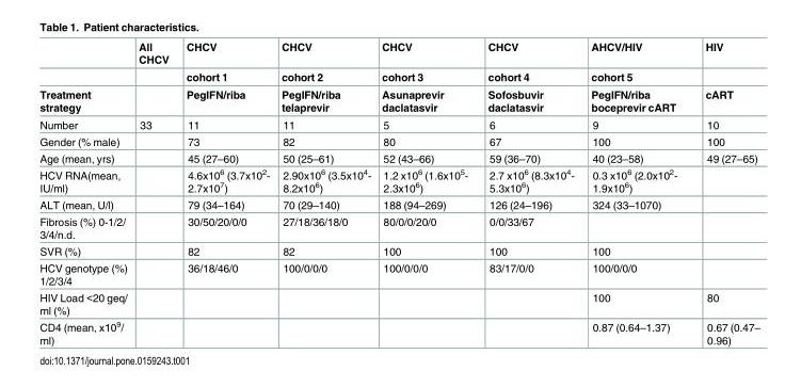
<table><thead><tr><td rowspan="3">Treatment strategy</td><td rowspan="3">All CHCV</td><td rowspan="3">CHCV cohort 1 PegIFN/riba</td><td rowspan="3">CHCV cohort 2 PegIFN/riba telaprevir</td><td rowspan="3">CHCV cohort 3 Asunaprevir daclatasvir</td><td rowspan="3">CHCV cohort 4 Sofosbuvir daclatasvir</td><td rowspan="3">AHCV/HIV cohort 5 PegIFN/riba boceprevir cART</td><td rowspan="3">HIV cART</td></tr><tr></tr><tr></tr></thead><tbody><tr><td>Number</td><td>33</td><td>11</td><td>11</td><td>5</td><td>6</td><td>9</td><td>10</td></tr><tr><td>Gender (% male)</td><td></td><td>73</td><td>82</td><td>80</td><td>67</td><td>100</td><td>100</td></tr><tr><td>Age (mean, yrs)</td><td></td><td>45 (27–60)</td><td>50 (25–61)</td><td>52 (43–66)</td><td>59 (36–70)</td><td>40 (23–58)</td><td>49 (27–65)</td></tr><tr><td>HCV RNA(mean, IU/ml)</td><td></td><td>4.6x10<sup>6</sup> (3.7x10<sup>2</sup>- 2.7x10<sup>7</sup>)</td><td>2.90x10<sup>6</sup> (3.5x10<sup>4</sup>- 8.2x10<sup>6</sup>)</td><td>1.2 x10<sup>6</sup> (1.6x10<sup>5</sup>- 2.3x10<sup>6</sup>)</td><td>2.7 x10<sup>6</sup> (8.3x10<sup>4</sup>- 5.3x10<sup>6</sup>)</td><td>0.3 x10<sup>6</sup> (2.0x10<sup>2</sup>- 1.9x10<sup>6</sup>)</td><td></td></tr><tr><td>ALT (mean, U/l)</td><td></td><td>79 (34–164)</td><td>70 (29–140)</td><td>188 (94–269)</td><td>126 (24–196)</td><td>324 (33–1070)</td><td></td></tr><tr><td>Fibrosis (%) 0-1/2/ 3/4/n.d.</td><td></td><td>30/50/20/0/0</td><td>27/18/36/18/0</td><td>80/0/0/20/0</td><td>0/0/33/67</td><td></td><td></td></tr><tr><td>SVR (%)</td><td></td><td>82</td><td>82</td><td>100</td><td>100</td><td>100</td><td></td></tr><tr><td>HCV genotype (%) 1/2/3/4</td><td></td><td>36/18/46/0</td><td>100/0/0/0</td><td>100/0/0/0</td><td>83/17/0/0</td><td>100/0/0/0</td><td></td></tr><tr><td>HIV Load &lt;20 geq/ ml (%)</td><td></td><td></td><td></td><td></td><td></td><td>100</td><td>80</td></tr><tr><td>CD4 (mean, x10<sup>9</sup>/ ml)</td><td></td><td></td><td></td><td></td><td></td><td>0.87 (0.64–1.37)</td><td>0.67 (0.47– 0.96)</td></tr></tbody></table>